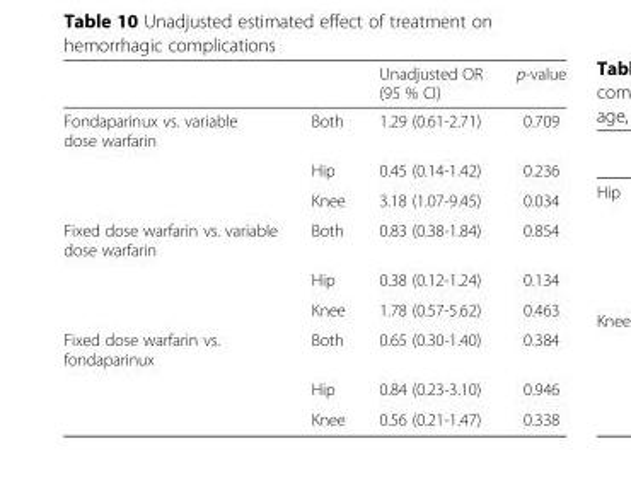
<table><thead><tr><td></td><td></td><td>Unadjusted OR (95 % CI)</td><td>p-value</td></tr></thead><tbody><tr><td rowspan="3">Fondaparinux vs. variable dose warfarin</td><td>Both</td><td>1.29 (0.61-2.71)</td><td>0.709</td></tr><tr><td>Hip</td><td>0.45 (0.14-1.42)</td><td>0.236</td></tr><tr><td>Knee</td><td>3.18 (1.07-9.45)</td><td>0.034</td></tr><tr><td rowspan="3">Fixed dose warfarin vs. variable dose warfarin</td><td>Both</td><td>0.83 (0.38-1.84)</td><td>0.854</td></tr><tr><td>Hip</td><td>0.38 (0.12-1.24)</td><td>0.134</td></tr><tr><td>Knee</td><td>1.78 (0.57-5.62)</td><td>0.463</td></tr><tr><td rowspan="3">Fixed dose warfarin vs. fondaparinux</td><td>Both</td><td>0.65 (0.30-1.40)</td><td>0.384</td></tr><tr><td>Hip</td><td>0.84 (0.23-3.10)</td><td>0.946</td></tr><tr><td>Knee</td><td>0.56 (0.21-1.47)</td><td>0.338</td></tr></tbody></table>